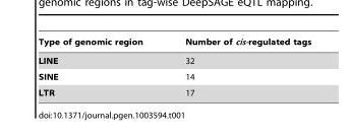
<table><thead><tr><td>Type of genomic region</td><td>Number of cis-regulated tags</td></tr></thead><tbody><tr><td>LINE</td><td>32</td></tr><tr><td>SINE</td><td>14</td></tr><tr><td>LTR</td><td>17</td></tr></tbody></table>